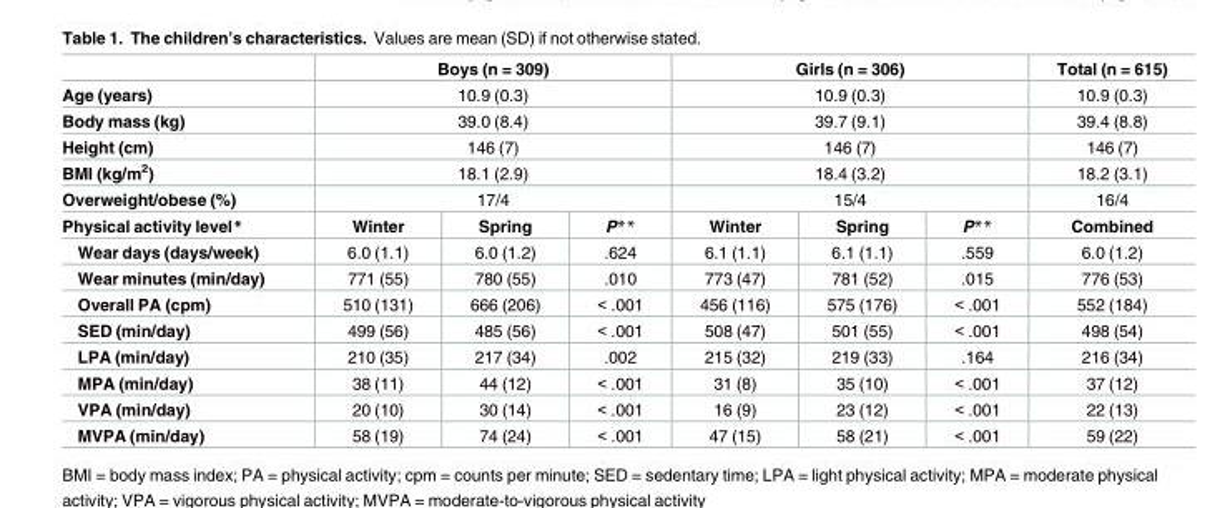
<table><thead><tr><td></td><td colspan="3">Boys (n = 309)</td><td colspan="3">Girls (n = 306)</td><td>Total (n = 615)</td></tr></thead><tbody><tr><td>Age (years)</td><td colspan="3">10.9 (0.3)</td><td colspan="3">10.9 (0.3)</td><td>10.9 (0.3)</td></tr><tr><td>Body mass (kg)</td><td colspan="3">39.0 (8.4)</td><td colspan="3">39.7 (9.1)</td><td>39.4 (8.8)</td></tr><tr><td>Height (cm)</td><td colspan="3">146 (7)</td><td colspan="3">146 (7)</td><td>146 (7)</td></tr><tr><td>BMI (kg/m<sup>2</sup>)</td><td colspan="3">18.1 (2.9)</td><td colspan="3">18.4 (3.2)</td><td>18.2 (3.1)</td></tr><tr><td>Overweight/obese (%)</td><td colspan="3">17/4</td><td colspan="3">15/4</td><td>16/4</td></tr><tr><td>Physical activity level*</td><td>Winter</td><td>Spring</td><td>P**</td><td>Winter</td><td>Spring</td><td>P**</td><td>Combined</td></tr><tr><td>Wear days (days/week)</td><td>6.0 (1.1)</td><td>6.0 (1.2)</td><td>.624</td><td>6.1 (1.1)</td><td>6.1 (1.1)</td><td>.559</td><td>6.0 (1.2)</td></tr><tr><td>Wear minutes (min/day)</td><td>771 (55)</td><td>780 (55)</td><td>.010</td><td>773 (47)</td><td>781 (52)</td><td>.015</td><td>776 (53)</td></tr><tr><td>Overall PA (cpm)</td><td>510 (131)</td><td>666 (206)</td><td>&lt; .001</td><td>456 (116)</td><td>575 (176)</td><td>&lt; .001</td><td>552 (184)</td></tr><tr><td>SED (min/day)</td><td>499 (56)</td><td>485 (56)</td><td>&lt; .001</td><td>508 (47)</td><td>501 (55)</td><td>&lt; .001</td><td>498 (54)</td></tr><tr><td>LPA (min/day)</td><td>210 (35)</td><td>217 (34)</td><td>.002</td><td>215 (32)</td><td>219 (33)</td><td>.164</td><td>216 (34)</td></tr><tr><td>MPA (min/day)</td><td>38 (11)</td><td>44 (12)</td><td>&lt; .001</td><td>31 (8)</td><td>35 (10)</td><td>&lt; .001</td><td>37 (12)</td></tr><tr><td>VPA (min/day)</td><td>20 (10)</td><td>30 (14)</td><td>&lt; .001</td><td>16 (9)</td><td>23 (12)</td><td>&lt; .001</td><td>22 (13)</td></tr><tr><td>MVPA (min/day)</td><td>58 (19)</td><td>74 (24)</td><td>&lt; .001</td><td>47 (15)</td><td>58 (21)</td><td>&lt; .001</td><td>59 (22)</td></tr></tbody></table>